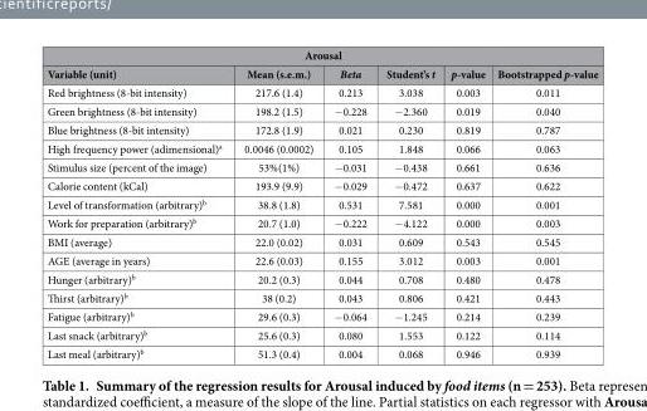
<table><thead><tr><td colspan="6">Arousal</td></tr><tr><td>Variable (unit)</td><td>Mean (s.e.m.)</td><td>Beta</td><td>Student’s t</td><td>p-value</td><td>Bootstrapped p-value</td></tr></thead><tbody><tr><td>Red brightness (8-bit intensity)</td><td>217.6 (1.4)</td><td>0.213</td><td>3.038</td><td>0.003</td><td>0.011</td></tr><tr><td>Green brightness (8-bit intensity)</td><td>198.2 (1.5)</td><td>− 0.228</td><td>− 2.360</td><td>0.019</td><td>0.040</td></tr><tr><td>Blue brightness (8-bit intensity)</td><td>172.8 (1.9)</td><td>0.021</td><td>0.230</td><td>0.819</td><td>0.787</td></tr><tr><td>High frequency power (adimensional)<sup>a</sup></td><td>0.0046 (0.0002)</td><td>0.105</td><td>1.848</td><td>0.066</td><td>0.063</td></tr><tr><td>Stimulus size (percent of the image)</td><td>53%(1%)</td><td>− 0.031</td><td>− 0.438</td><td>0.661</td><td>0.636</td></tr><tr><td>Calorie content (kCal)</td><td>193.9 (9.9)</td><td>− 0.029</td><td>− 0.472</td><td>0.637</td><td>0.622</td></tr><tr><td>Level of transformation (arbitrary)<sup>b</sup></td><td>38.8 (1.8)</td><td>0.531</td><td>7.581</td><td>0.000</td><td>0.001</td></tr><tr><td>Work for preparation (arbitrary)<sup>b</sup></td><td>20.7 (1.0)</td><td>− 0.222</td><td>− 4.122</td><td>0.000</td><td>0.003</td></tr><tr><td>BMI (average)</td><td>22.0 (0.02)</td><td>0.031</td><td>0.609</td><td>0.543</td><td>0.545</td></tr><tr><td>AGE (average in years)</td><td>22.6 (0.03)</td><td>0.155</td><td>3.012</td><td>0.003</td><td>0.001</td></tr><tr><td>Hunger (arbitrary)<sup>b</sup></td><td>20.2 (0.3)</td><td>0.044</td><td>0.708</td><td>0.480</td><td>0.478</td></tr><tr><td>Thirst (arbitrary)<sup>b</sup></td><td>38 (0.2)</td><td>0.043</td><td>0.806</td><td>0.421</td><td>0.443</td></tr><tr><td>Fatigue (arbitrary)<sup>b</sup></td><td>29.6 (0.3)</td><td>− 0.064</td><td>− 1.245</td><td>0.214</td><td>0.239</td></tr><tr><td>Last snack (arbitrary)<sup>b</sup></td><td>25.6 (0.3)</td><td>0.080</td><td>1.553</td><td>0.122</td><td>0.114</td></tr><tr><td>Last meal (arbitrary)<sup>b</sup></td><td>51.3 (0.4)</td><td>0.004</td><td>0.068</td><td>0.946</td><td>0.939</td></tr></tbody></table>